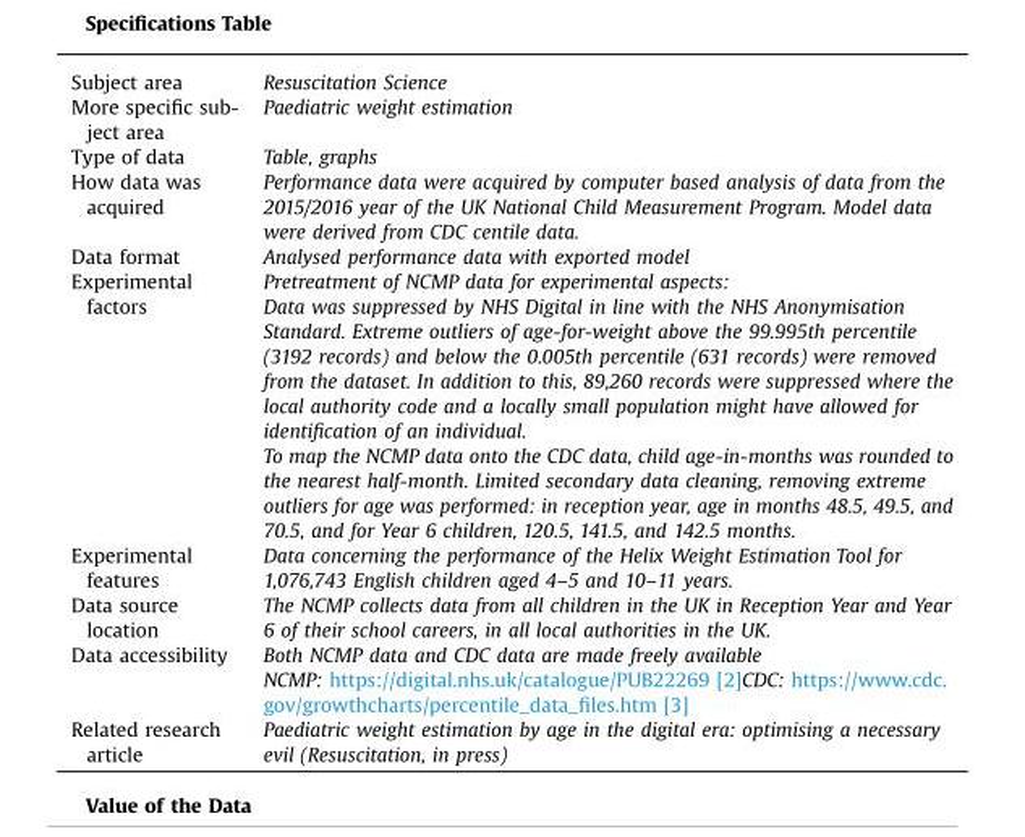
<table><tbody><tr><td>Subject area</td><td>Resuscitation Science</td></tr><tr><td>More specific sub- ject area</td><td>Paediatric weight estimation</td></tr><tr><td>Type of data</td><td>Table, graphs</td></tr><tr><td>How data was acquired</td><td>Performance data were acquired by computer based analysis of data from the 2015/2016 year of the UK National Child Measurement Program. Model data were derived from CDC centile data.</td></tr><tr><td>Data format</td><td>Analysed performance data with exported model</td></tr><tr><td rowspan="3">Experimental factors</td><td>Pretreatment of NCMP data for experimental aspects:</td></tr><tr><td>Data was suppressed by NHS Digital in line with the NHS Anonymisation Standard. Extreme outliers of age-for-weight above the 99.995th percentile (3192 records) and below the 0.005th percentile (631 records) were removed from the dataset. In addition to this, 89,260 records were suppressed where the local authority code and a locally small population might have allowed for identification of an individual.</td></tr><tr><td>To map the NCMP data onto the CDC data, child age-in-months was rounded to the nearest half-month. Limited secondary data cleaning, removing extreme outliers for age was performed: in reception year, age in months 48.5, 49.5, and 70.5, and for Year 6 children, 120.5, 141.5, and 142.5 months.</td></tr><tr><td>Experimental features</td><td>Data concerning the performance of the Helix Weight Estimation Tool for 1,076,743 English children aged 4–5 and 10–11 years.</td></tr><tr><td>Data source location</td><td>The NCMP collects data from all children in the UK in Reception Year and Year 6 of their school careers, in all local authorities in the UK.</td></tr><tr><td rowspan="2">Data accessibility</td><td>Both NCMP data and CDC data are made freely available</td></tr><tr><td>NCMP: https://digital.nhs.uk/catalogue/PUB22269 [2]CDC: https://www.cdc. gov/growthcharts/percentile_data_files.htm [3]</td></tr><tr><td>Related research article</td><td>Paediatric weight estimation by age in the digital era: optimising a necessary evil (Resuscitation, in press)</td></tr></tbody></table>